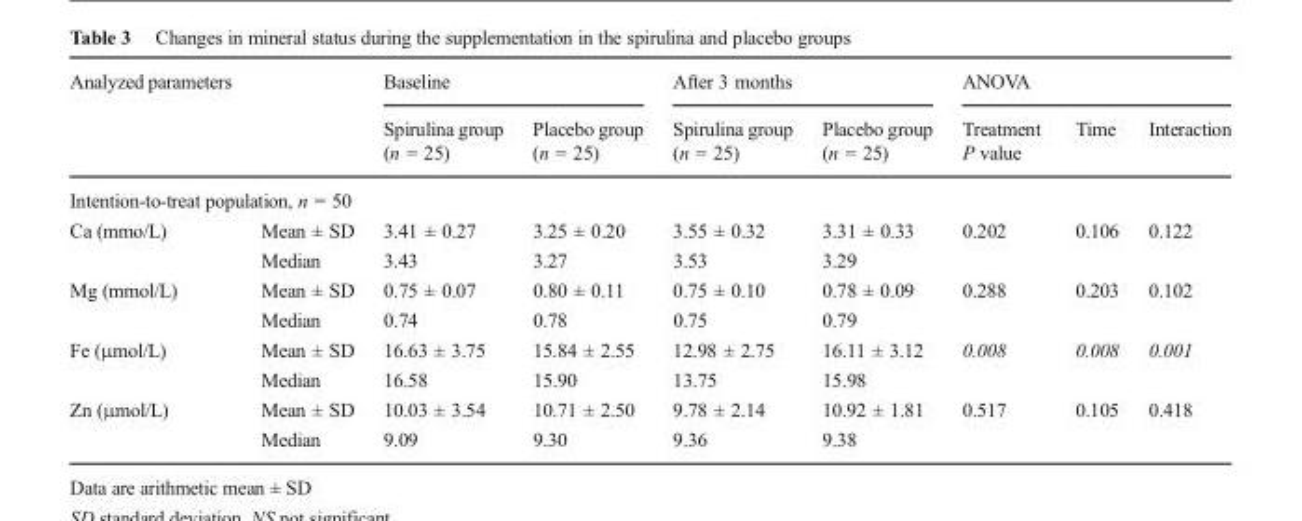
<table><thead><tr><td rowspan="2">Analyzed parameters</td><td rowspan="2"></td><td colspan="2">Baseline</td><td colspan="2">After 3 months</td><td colspan="3">ANOVA</td></tr><tr><td>Spirulina group (n = 25)</td><td>Placebo group (n = 25)</td><td>Spirulina group (n = 25)</td><td>Placebo group (n = 25)</td><td>Treatment P value</td><td>Time</td><td>Interaction</td></tr></thead><tbody><tr><td colspan="9">Intention-to-treat population, n = 50</td></tr><tr><td rowspan="2">Ca (mmo/L)</td><td>Mean ± SD</td><td>3.41 ± 0.27</td><td>3.25 ± 0.20</td><td>3.55 ± 0.32</td><td>3.31 ± 0.33</td><td>0.202</td><td>0.106</td><td>0.122</td></tr><tr><td>Median</td><td>3.43</td><td>3.27</td><td>3.53</td><td>3.29</td><td></td><td></td><td></td></tr><tr><td rowspan="2">Mg (mmol/L)</td><td>Mean ± SD</td><td>0.75 ± 0.07</td><td>0.80 ± 0.11</td><td>0.75 ± 0.10</td><td>0.78 ± 0.09</td><td>0.288</td><td>0.203</td><td>0.102</td></tr><tr><td>Median</td><td>0.74</td><td>0.78</td><td>0.75</td><td>0.79</td><td></td><td></td><td></td></tr><tr><td rowspan="2">Fe (μmol/L)</td><td>Mean ± SD</td><td>16.63 ± 3.75</td><td>15.84 ± 2.55</td><td>12.98 ± 2.75</td><td>16.11 ± 3.12</td><td>0.008</td><td>0.008</td><td>0.001</td></tr><tr><td>Median</td><td>16.58</td><td>15.90</td><td>13.75</td><td>15.98</td><td></td><td></td><td></td></tr><tr><td rowspan="2">Zn (μmol/L)</td><td>Mean ± SD</td><td>10.03 ± 3.54</td><td>10.71 ± 2.50</td><td>9.78 ± 2.14</td><td>10.92 ± 1.81</td><td>0.517</td><td>0.105</td><td>0.418</td></tr><tr><td>Median</td><td>9.09</td><td>9.30</td><td>9.36</td><td>9.38</td><td></td><td></td><td></td></tr></tbody></table>